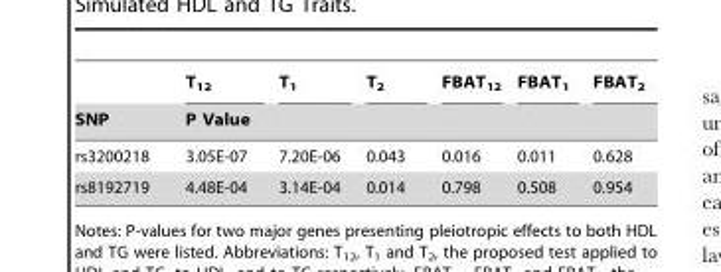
<table><thead><tr><td rowspan="2">SNP</td><td>T<sub>12</sub></td><td>T<sub>1</sub></td><td>T<sub>2</sub></td><td>FBAT<sub>12</sub></td><td>FBAT<sub>1</sub></td><td>FBAT<sub>2</sub></td></tr><tr><td colspan="6">P Value</td></tr></thead><tbody><tr><td>rs3200218</td><td>3.05E-07</td><td>7.20E-06</td><td>0.043</td><td>0.016</td><td>0.011</td><td>0.628</td></tr><tr><td>rs8192719</td><td>4.48E-04</td><td>3.14E-04</td><td>0.014</td><td>0.798</td><td>0.508</td><td>0.954</td></tr></tbody></table>